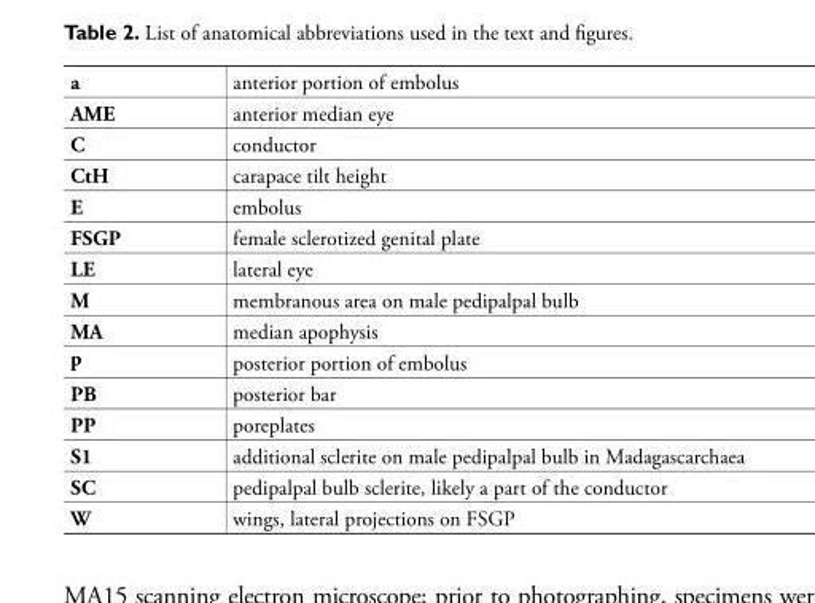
<table><tbody><tr><td>a</td><td>anterior portion of embolus</td></tr><tr><td>AME</td><td>anterior median eye</td></tr><tr><td>C</td><td>conductor</td></tr><tr><td>CtH</td><td>carapace tilt height</td></tr><tr><td>E</td><td>embolus</td></tr><tr><td>FSGP</td><td>female sclerotized genital plate</td></tr><tr><td>LE</td><td>lateral eye</td></tr><tr><td>M</td><td>membranous area on male pedipalpal bulb</td></tr><tr><td>MA</td><td>median apophysis</td></tr><tr><td>p</td><td>posterior portion of embolus</td></tr><tr><td>PB</td><td>posterior bar</td></tr><tr><td>PP</td><td>poreplates</td></tr><tr><td>S1</td><td>additional sclerite on male pedipalpal bulb in Madagascarchaea</td></tr><tr><td>SC</td><td>pedipalpal bulb sclerite, likely a part of the conductor</td></tr><tr><td>W</td><td>wings, lateral projections on FSGP</td></tr></tbody></table>